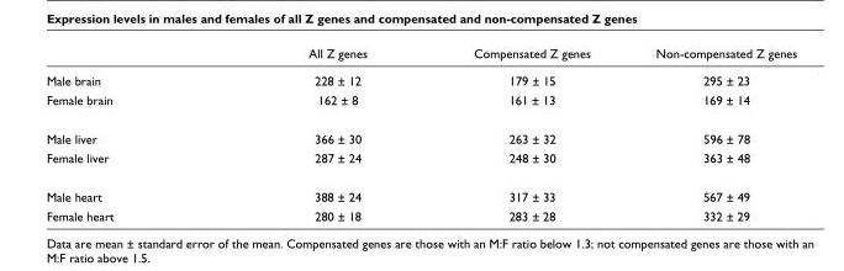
<table><thead><tr><td></td><td>All Z genes</td><td>Compensated Z genes</td><td>Non-compensated Z genes</td></tr></thead><tbody><tr><td>Male brain</td><td>228 ± 12</td><td>179 ± 15</td><td>295 ± 23</td></tr><tr><td>Female brain</td><td>162 ± 8</td><td>161 ± 13</td><td>169 ± 14</td></tr><tr><td>Male liver</td><td>366 ± 30</td><td>263 ± 32</td><td>596 ± 78</td></tr><tr><td>Female liver</td><td>287 ± 24</td><td>248 ± 30</td><td>363 ± 48</td></tr><tr><td>Male heart</td><td>388 ± 24</td><td>317 ± 33</td><td>567 ± 49</td></tr><tr><td>Female heart</td><td>280 ± 18</td><td>283 ± 28</td><td>332 ± 29</td></tr></tbody></table>